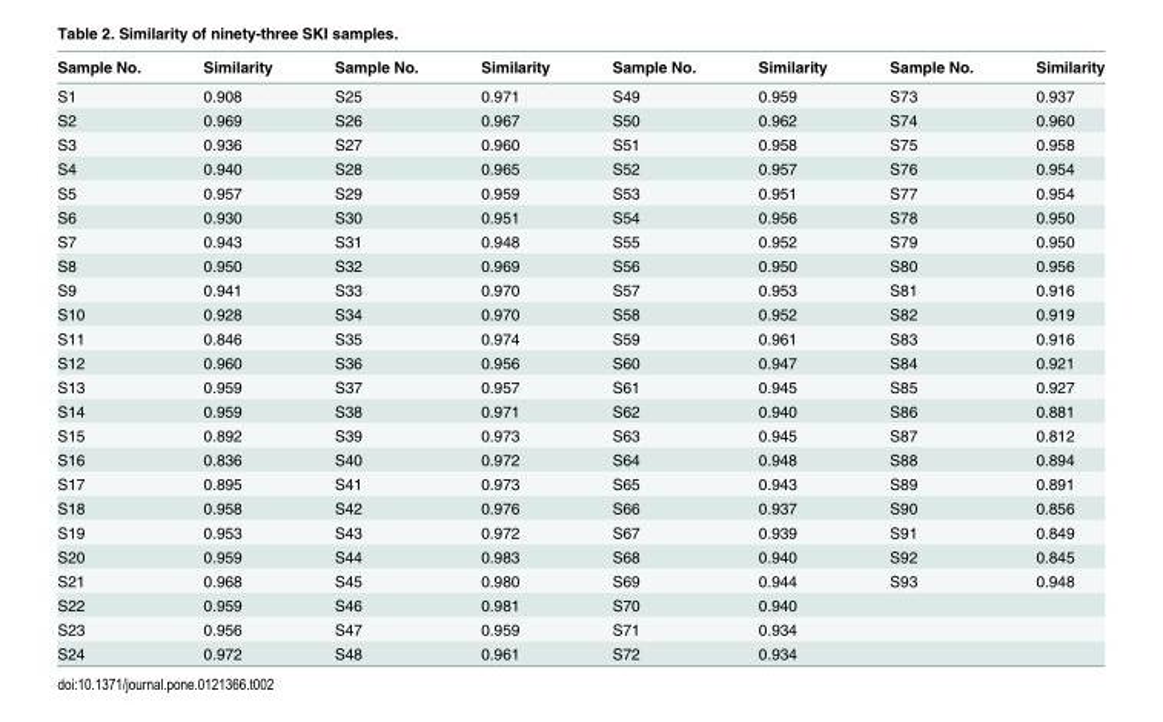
<table><thead><tr><td>Sample No.</td><td>Similarity</td><td>Sample No.</td><td>Similarity</td><td>Sample No.</td><td>Similarity</td><td>Sample No.</td><td>Similarity</td></tr></thead><tbody><tr><td>S1</td><td>0.908</td><td>S25</td><td>0.971</td><td>S49</td><td>0.959</td><td>S73</td><td>0.937</td></tr><tr><td>S2</td><td>0.969</td><td>S26</td><td>0.967</td><td>S50</td><td>0.962</td><td>S74</td><td>0.960</td></tr><tr><td>S3</td><td>0.936</td><td>S27</td><td>0.960</td><td>S51</td><td>0.958</td><td>S75</td><td>0.958</td></tr><tr><td>S4</td><td>0.940</td><td>S28</td><td>0.965</td><td>S52</td><td>0.957</td><td>S76</td><td>0.954</td></tr><tr><td>S5</td><td>0.957</td><td>S29</td><td>0.959</td><td>S53</td><td>0.951</td><td>S77</td><td>0.954</td></tr><tr><td>S6</td><td>0.930</td><td>S30</td><td>0.951</td><td>S54</td><td>0.956</td><td>S78</td><td>0.950</td></tr><tr><td>S7</td><td>0.943</td><td>S31</td><td>0.948</td><td>S55</td><td>0.952</td><td>S79</td><td>0.950</td></tr><tr><td>S8</td><td>0.950</td><td>S32</td><td>0.969</td><td>S56</td><td>0.950</td><td>S80</td><td>0.956</td></tr><tr><td>S9</td><td>0.941</td><td>S33</td><td>0.970</td><td>S57</td><td>0.953</td><td>S81</td><td>0.916</td></tr><tr><td>S10</td><td>0.928</td><td>S34</td><td>0.970</td><td>S58</td><td>0.952</td><td>S82</td><td>0.919</td></tr><tr><td>S11</td><td>0.846</td><td>S35</td><td>0.974</td><td>S59</td><td>0.961</td><td>S83</td><td>0.916</td></tr><tr><td>S12</td><td>0.960</td><td>S36</td><td>0.956</td><td>S60</td><td>0.947</td><td>S84</td><td>0.921</td></tr><tr><td>S13</td><td>0.959</td><td>S37</td><td>0.957</td><td>S61</td><td>0.945</td><td>S85</td><td>0.927</td></tr><tr><td>S14</td><td>0.959</td><td>S38</td><td>0.971</td><td>S62</td><td>0.940</td><td>S86</td><td>0.881</td></tr><tr><td>S15</td><td>0.892</td><td>S39</td><td>0.973</td><td>S63</td><td>0.945</td><td>S87</td><td>0.812</td></tr><tr><td>S16</td><td>0.836</td><td>S40</td><td>0.972</td><td>S64</td><td>0.948</td><td>S88</td><td>0.894</td></tr><tr><td>S17</td><td>0.895</td><td>S41</td><td>0.973</td><td>S65</td><td>0.943</td><td>S89</td><td>0.891</td></tr><tr><td>S18</td><td>0.958</td><td>S42</td><td>0.976</td><td>S66</td><td>0.937</td><td>S90</td><td>0.856</td></tr><tr><td>S19</td><td>0.953</td><td>S43</td><td>0.972</td><td>S67</td><td>0.939</td><td>S91</td><td>0.849</td></tr><tr><td>S20</td><td>0.959</td><td>S44</td><td>0.983</td><td>S68</td><td>0.940</td><td>S92</td><td>0.845</td></tr><tr><td>S21</td><td>0.968</td><td>S45</td><td>0.980</td><td>S69</td><td>0.944</td><td>S93</td><td>0.948</td></tr><tr><td>S22</td><td>0.959</td><td>S46</td><td>0.981</td><td>S70</td><td>0.940</td><td></td><td></td></tr><tr><td>S23</td><td>0.956</td><td>S47</td><td>0.959</td><td>S71</td><td>0.934</td><td></td><td></td></tr><tr><td>S24</td><td>0.972</td><td>S48</td><td>0.961</td><td>S72</td><td>0.934</td><td></td><td></td></tr></tbody></table>